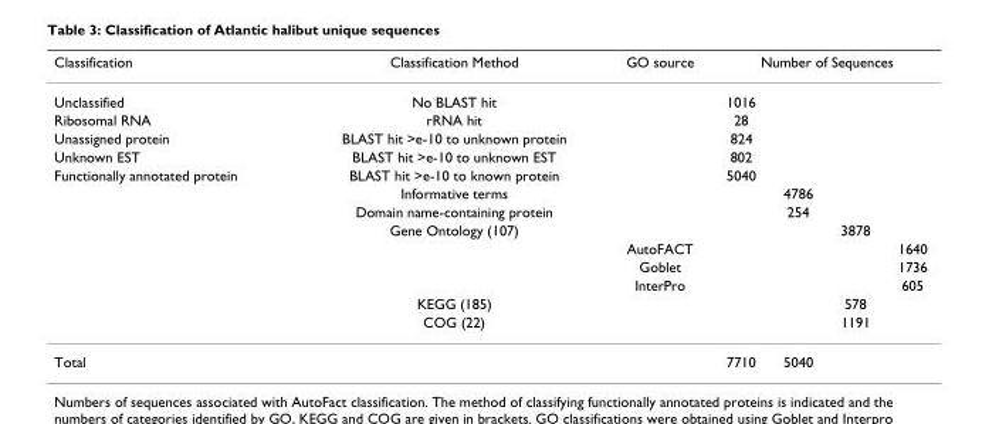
<table><thead><tr><td rowspan="2">Classification Unclassified</td><td rowspan="2">Classification Method No BLAST hit</td><td rowspan="2">GO source</td><td colspan="4">Number of Sequences</td></tr><tr><td>1016</td><td></td><td></td><td></td></tr></thead><tbody><tr><td>Ribosomal RNA</td><td>rRNA hit</td><td></td><td>28</td><td></td><td></td><td></td></tr><tr><td>Unassigned protein</td><td>BLAST hit &gt;e-10 to unknown protein</td><td></td><td>824</td><td></td><td></td><td></td></tr><tr><td>Unknown EST</td><td>BLAST hit &gt;e-10 to unknown EST</td><td></td><td>802</td><td></td><td></td><td></td></tr><tr><td rowspan="9">Functionally annotated protein</td><td>BLAST hit &gt;e-10 to known protein</td><td></td><td>5040</td><td></td><td></td><td></td></tr><tr><td>Informative terms</td><td></td><td></td><td>4786</td><td></td><td></td></tr><tr><td>Domain name-containing protein</td><td></td><td></td><td>254</td><td></td><td></td></tr><tr><td>Gene Ontology (107)</td><td></td><td></td><td></td><td>3878</td><td></td></tr><tr><td></td><td>AutoFACT</td><td></td><td></td><td></td><td>1640</td></tr><tr><td></td><td>Goblet</td><td></td><td></td><td></td><td>1736</td></tr><tr><td></td><td>InterPro</td><td></td><td></td><td></td><td>605</td></tr><tr><td>KEGG (185)</td><td></td><td></td><td></td><td>578</td><td></td></tr><tr><td>COG (22)</td><td></td><td></td><td></td><td>1191</td><td></td></tr><tr><td>Total</td><td></td><td></td><td>7710</td><td>5040</td><td></td><td></td></tr></tbody></table>